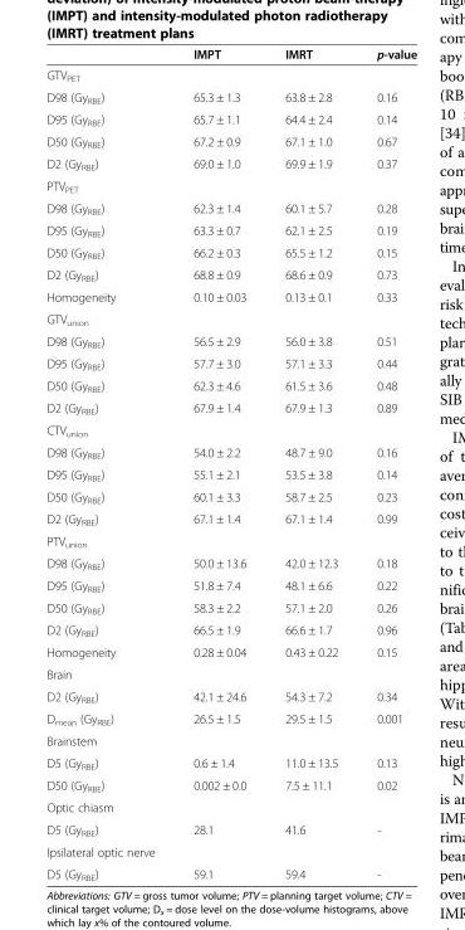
<table><thead><tr><td></td><td>IMPT</td><td>IMRT</td><td>p-value</td></tr></thead><tbody><tr><td colspan="4">GTV<sub>PET</sub></td></tr><tr><td>D98 (Gy<sub>RBE</sub>)</td><td>65.3 ± 1.3</td><td>63.8 ± 2.8</td><td>0.16</td></tr><tr><td>D95 (Gy<sub>RBE</sub>)</td><td>65.7 ± 1.1</td><td>64.4 ± 2.4</td><td>0.14</td></tr><tr><td>D50 (Gy<sub>RBE</sub>)</td><td>67.2 ± 0.9</td><td>67.1 ± 1.0</td><td>0.67</td></tr><tr><td>D2 (Gy<sub>RBE</sub>)</td><td>69.0 ± 1.0</td><td>69.9 ± 1.9</td><td>0.37</td></tr><tr><td colspan="4">PTV<sub>PET</sub></td></tr><tr><td>D98 (Gy<sub>RBE</sub>)</td><td>62.3 ± 1.4</td><td>60.1 ± 5.7</td><td>0.28</td></tr><tr><td>D95 (Gy<sub>RBE</sub>)</td><td>63.3 ± 0.7</td><td>62.1 ± 2.5</td><td>0.19</td></tr><tr><td>D50 (Gy<sub>RBE</sub>)</td><td>66.2 ± 0.3</td><td>65.5 ± 1.2</td><td>0.15</td></tr><tr><td>D2 (Gy<sub>RBE</sub>)</td><td>68.8 ± 0.9</td><td>68.6 ± 0.9</td><td>0.73</td></tr><tr><td>Homogeneity</td><td>0.10 ± 0.03</td><td>0.13 ± 0.1</td><td>0.33</td></tr><tr><td colspan="4">GTV<sub>union</sub></td></tr><tr><td>D98 (Gy<sub>RBE</sub>)</td><td>56.5 ± 2.9</td><td>56.0 ± 3.8</td><td>0.51</td></tr><tr><td>D95 (Gy<sub>RBE</sub>)</td><td>57.7 ± 3.0</td><td>57.1 ± 3.3</td><td>0.44</td></tr><tr><td>D50 (Gy<sub>RBE</sub>)</td><td>62.3 ± 4.6</td><td>61.5 ± 3.6</td><td>0.48</td></tr><tr><td>D2 (Gy<sub>RBE</sub>)</td><td>67.9 ± 1.4</td><td>67.9 ± 1.3</td><td>0.89</td></tr><tr><td colspan="4">CTV<sub>union</sub></td></tr><tr><td>D98 (Gy<sub>RBE</sub>)</td><td>54.0 ± 2.2</td><td>48.7 ± 9.0</td><td>0.16</td></tr><tr><td>D95 (Gy<sub>RBE</sub>)</td><td>55.1 ± 2.1</td><td>53.5 ± 3.8</td><td>0.14</td></tr><tr><td>D50 (Gy<sub>RBE</sub>)</td><td>60.1 ± 3.3</td><td>58.7 ± 2.5</td><td>0.23</td></tr><tr><td>D2 (Gy<sub>RBE</sub>)</td><td>67.1 ± 1.4</td><td>67.1 ± 1.4</td><td>0.99</td></tr><tr><td colspan="4">PTV<sub>union</sub></td></tr><tr><td>D98 (Gy<sub>RBE</sub>)</td><td>50.0 ± 13.6</td><td>42.0 ± 12.3</td><td>0.18</td></tr><tr><td>D95 (Gy<sub>RBE</sub>)</td><td>51.8 ± 7.4</td><td>48.1 ± 6.6</td><td>0.22</td></tr><tr><td>D50 (Gy<sub>RBE</sub>)</td><td>58.3 ± 2.2</td><td>57.1 ± 2.0</td><td>0.26</td></tr><tr><td>D2 (Gy<sub>RBE</sub>)</td><td>66.5 ± 1.9</td><td>66.6 ± 1.7</td><td>0.96</td></tr><tr><td>Homogeneity</td><td>0.28 ± 0.04</td><td>0.43 ± 0.22</td><td>0.15</td></tr><tr><td colspan="4">Brain</td></tr><tr><td>D2 (Gy<sub>RBE</sub>)</td><td>42.1 ± 24.6</td><td>54.3 ± 7.2</td><td>0.34</td></tr><tr><td>D<sub>mean</sub> (Gy<sub>RBE</sub>)</td><td>26.5 ± 1.5</td><td>29.5 ± 1.5</td><td>0.001</td></tr><tr><td colspan="4">Brainstem</td></tr><tr><td>D5 (Gy<sub>RBE</sub>)</td><td>0.6 ± 1.4</td><td>11.0 ± 13.5</td><td>0.13</td></tr><tr><td>D50 (Gy<sub>RBE</sub>)</td><td>0.002 ± 0.0</td><td>7.5 ± 11.1</td><td>0.02</td></tr><tr><td colspan="4">Optic chiasm</td></tr><tr><td>D5 (Gy<sub>RBE</sub>)</td><td>28.1</td><td>41.6</td><td>-</td></tr><tr><td colspan="4">Ipsilateral optic nerve</td></tr><tr><td>D5 (Gy<sub>RBE</sub>)</td><td>59.1</td><td>59.4</td><td>-</td></tr></tbody></table>